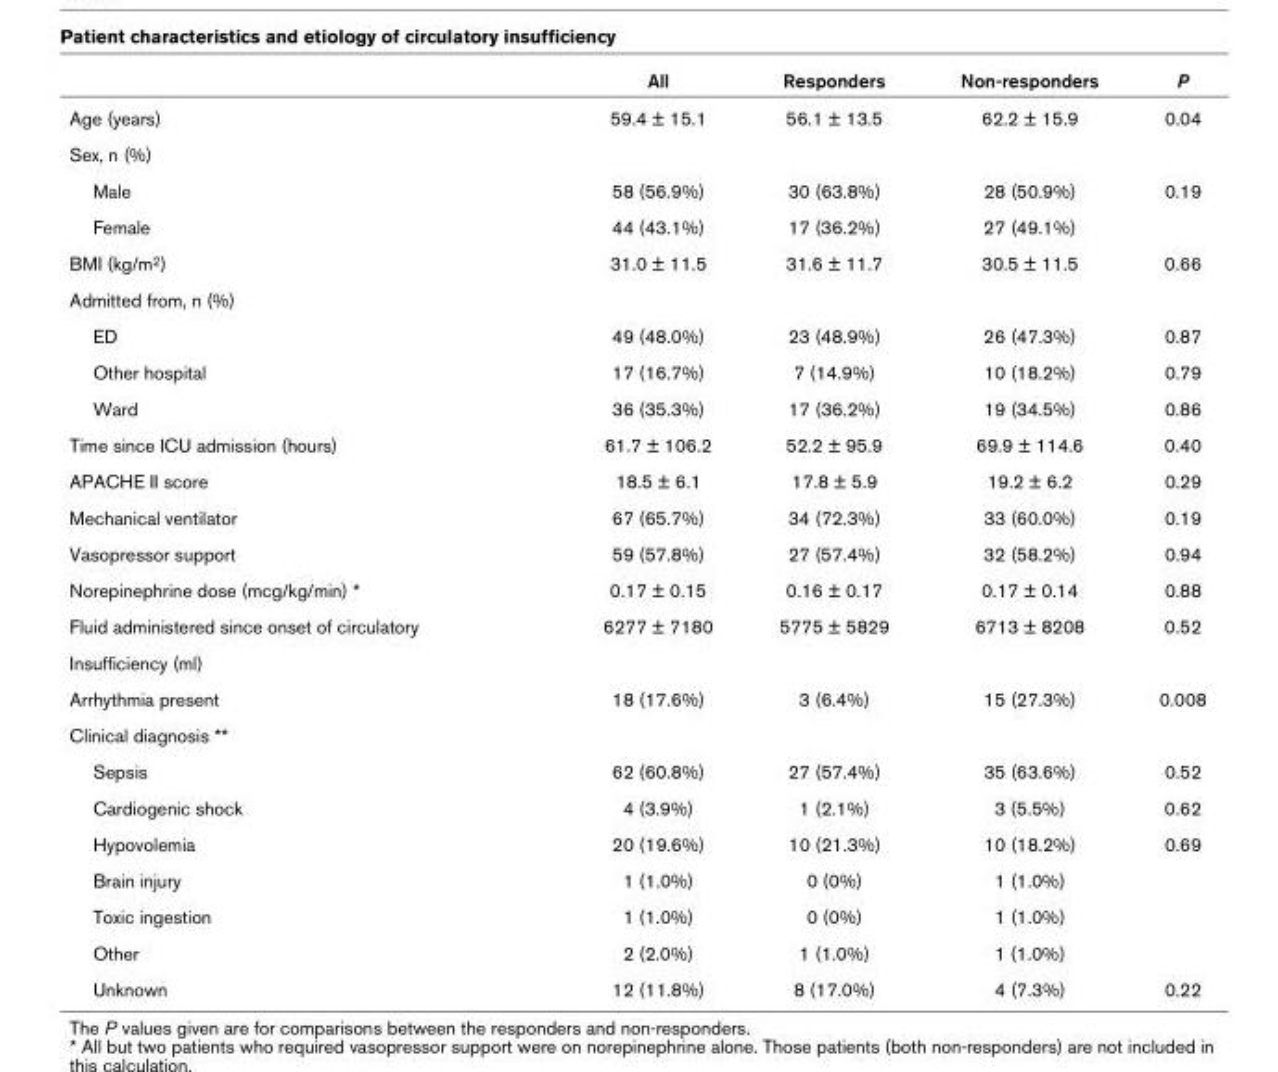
<table><thead><tr><td></td><td>All</td><td>Responders</td><td>Non-responders</td><td>P</td></tr></thead><tbody><tr><td>Age (years)</td><td>59.4 ± 15.1</td><td>56.1 ± 13.5</td><td>62.2 ± 15.9</td><td>0.04</td></tr><tr><td colspan="5">Sex, n (%)</td></tr><tr><td>Male</td><td>58 (56.9%)</td><td>30 (63.8%)</td><td>28 (50.9%)</td><td>0.19</td></tr><tr><td>Female</td><td>44 (43.1%)</td><td>17 (36.2%)</td><td>27 (49.1%)</td><td></td></tr><tr><td>BMI (kg/m<sup>2</sup>)</td><td>31.0 ± 11.5</td><td>31.6 ± 11.7</td><td>30.5 ± 11.5</td><td>0.66</td></tr><tr><td colspan="5">Admitted from, n (%)</td></tr><tr><td>ED</td><td>49 (48.0%)</td><td>23 (48.9%)</td><td>26 (47.3%)</td><td>0.87</td></tr><tr><td>Other hospital</td><td>17 (16.7%)</td><td>7 (14.9%)</td><td>10 (18.2%)</td><td>0.79</td></tr><tr><td>Ward</td><td>36 (35.3%)</td><td>17 (36.2%)</td><td>19 (34.5%)</td><td>0.86</td></tr><tr><td>Time since ICU admission (hours)</td><td>61.7 ± 106.2</td><td>52.2 ± 95.9</td><td>69.9 ± 114.6</td><td>0.40</td></tr><tr><td>APACHE II score</td><td>18.5 ± 6.1</td><td>17.8 ± 5.9</td><td>19.2 ± 6.2</td><td>0.29</td></tr><tr><td>Mechanical ventilator</td><td>67 (65.7%)</td><td>34 (72.3%)</td><td>33 (60.0%)</td><td>0.19</td></tr><tr><td>Vasopressor support</td><td>59 (57.8%)</td><td>27 (57.4%)</td><td>32 (58.2%)</td><td>0.94</td></tr><tr><td>Norepinephrine dose (mcg/kg/min) *</td><td>0.17 ± 0.15</td><td>0.16 ± 0.17</td><td>0.17 ± 0.14</td><td>0.88</td></tr><tr><td>Fluid administered since onset of circulatory</td><td>6277 ± 7180</td><td>5775 ± 5829</td><td>6713 ± 8208</td><td>0.52</td></tr><tr><td colspan="5">Insufficiency (ml)</td></tr><tr><td>Arrhythmia present</td><td>18 (17.6%)</td><td>3 (6.4%)</td><td>15 (27.3%)</td><td>0.008</td></tr><tr><td colspan="5">Clinical diagnosis **</td></tr><tr><td>Sepsis</td><td>62 (60.8%)</td><td>27 (57.4%)</td><td>35 (63.6%)</td><td>0.52</td></tr><tr><td>Cardiogenic shock</td><td>4 (3.9%)</td><td>1 (2.1%)</td><td>3 (5.5%)</td><td>0.62</td></tr><tr><td>Hypovolemia</td><td>20 (19.6%)</td><td>10 (21.3%)</td><td>10 (18.2%)</td><td>0.69</td></tr><tr><td>Brain injury</td><td>1 (1.0%)</td><td>0 (0%)</td><td>1 (1.0%)</td><td></td></tr><tr><td>Toxic ingestion</td><td>1 (1.0%)</td><td>0 (0%)</td><td>1 (1.0%)</td><td></td></tr><tr><td>Other</td><td>2 (2.0%)</td><td>1 (1.0%)</td><td>1 (1.0%)</td><td></td></tr><tr><td>Unknown</td><td>12 (11.8%)</td><td>8 (17.0%)</td><td>4 (7.3%)</td><td>0.22</td></tr></tbody></table>